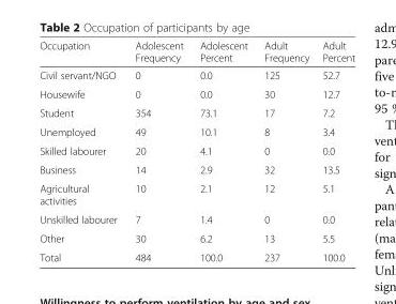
<table><thead><tr><td>Occupation</td><td>Adolescent Frequency</td><td>Adolescent Percent</td><td>Adult Frequency</td><td>Adult Percent</td></tr></thead><tbody><tr><td>Civil servant/NGO</td><td>0</td><td>0.0</td><td>125</td><td>52.7</td></tr><tr><td>Housewife</td><td>0</td><td>0.0</td><td>30</td><td>12.7</td></tr><tr><td>Student</td><td>354</td><td>73.1</td><td>17</td><td>7.2</td></tr><tr><td>Unemployed</td><td>49</td><td>10.1</td><td>8</td><td>3.4</td></tr><tr><td>Skilled labourer</td><td>20</td><td>4.1</td><td>0</td><td>0.0</td></tr><tr><td>Business</td><td>14</td><td>2.9</td><td>32</td><td>13.5</td></tr><tr><td>Agricultural activities</td><td>10</td><td>2.1</td><td>12</td><td>5.1</td></tr><tr><td>Unskilled labourer</td><td>7</td><td>1.4</td><td>0</td><td>0.0</td></tr><tr><td>Other</td><td>30</td><td>6.2</td><td>13</td><td>5.5</td></tr><tr><td>Total</td><td>484</td><td>100.0</td><td>237</td><td>100.0</td></tr></tbody></table>